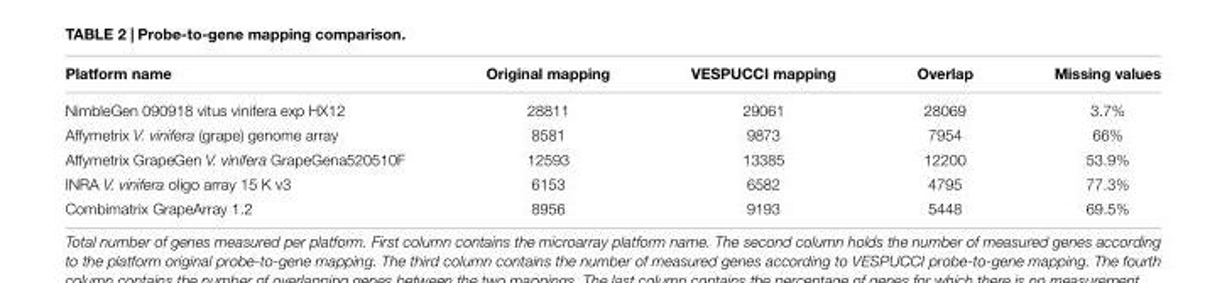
<table><thead><tr><td>Platform name</td><td>Original mapping</td><td>VESPUCCI mapping</td><td>Overlap</td><td>Missing values</td></tr></thead><tbody><tr><td>NimbleGen 090918 vitus vinifera exp HX12</td><td>28811</td><td>29061</td><td>28069</td><td>3.7%</td></tr><tr><td>Affymetrix V. vinifera (grape) genome array</td><td>8581</td><td>9873</td><td>7954</td><td>66%</td></tr><tr><td>Affymetrix GrapeGen V. vinifera GrapeGena520510F</td><td>12593</td><td>13385</td><td>12200</td><td>53.9%</td></tr><tr><td>INRA V. vinifera oligo array 15 K v3</td><td>6153</td><td>6582</td><td>4795</td><td>77.3%</td></tr><tr><td>Combimatrix GrapeArray 1.2</td><td>8956</td><td>9193</td><td>5448</td><td>69.5%</td></tr></tbody></table>